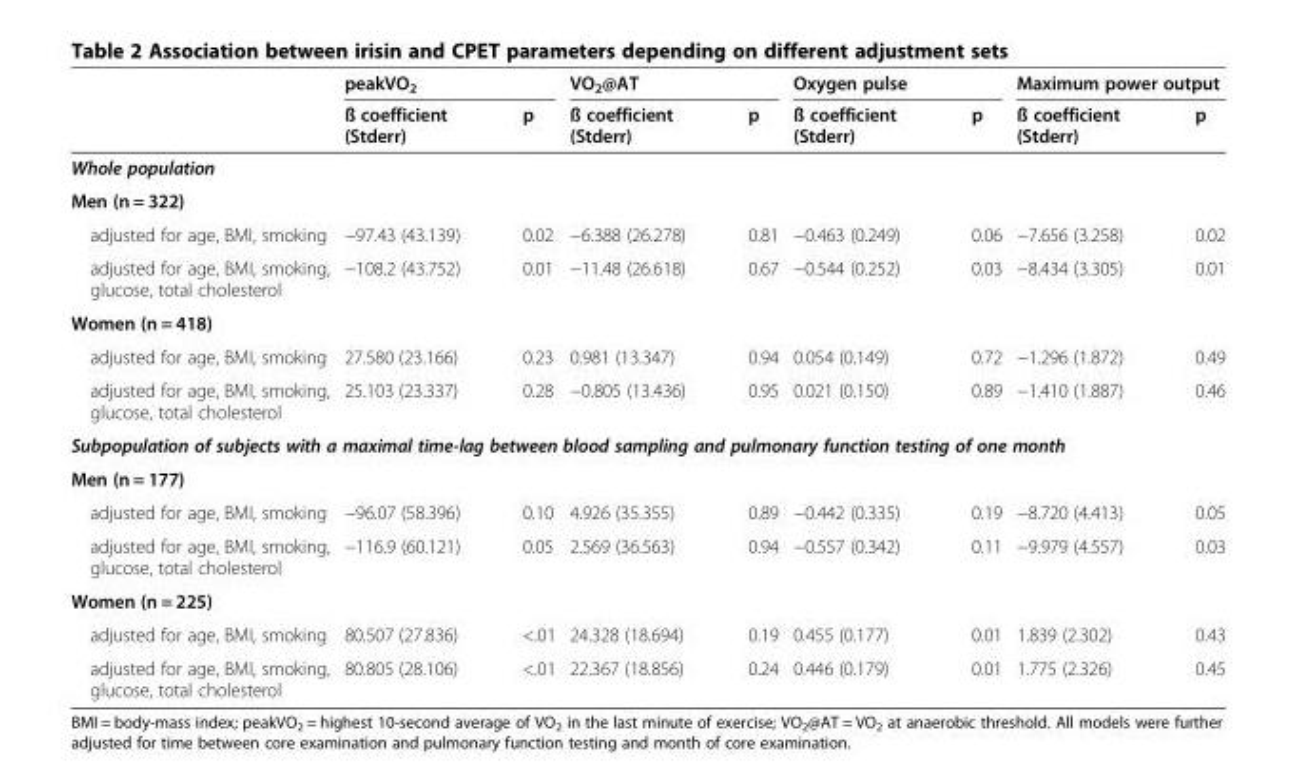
<table><thead><tr><td rowspan="2"></td><td colspan="2">peakVO<sub>2</sub></td><td colspan="2">VO<sub>2</sub>@AT</td><td colspan="2">Oxygen pulse</td><td colspan="2">Maximum power output</td></tr><tr><td>ß coefficient (Stderr)</td><td>p</td><td>ß coefficient (Stderr)</td><td>p</td><td>ß coefficient (Stderr)</td><td>p</td><td>ß coefficient (Stderr)</td><td>p</td></tr></thead><tbody><tr><td colspan="9">Whole population</td></tr><tr><td colspan="9">Men (n = 322)</td></tr><tr><td>adjusted for age, BMI, smoking</td><td>−97.43 (43.139)</td><td>0.02</td><td>−6.388 (26.278)</td><td>0.81</td><td>−0.463 (0.249)</td><td>0.06</td><td>−7.656 (3.258)</td><td>0.02</td></tr><tr><td>adjusted for age, BMI, smoking, glucose, total cholesterol</td><td>−108.2 (43.752)</td><td>0.01</td><td>−11.48 (26.618)</td><td>0.67</td><td>−0.544 (0.252)</td><td>0.03</td><td>−8.434 (3.305)</td><td>0.01</td></tr><tr><td colspan="9">Women (n = 418)</td></tr><tr><td>adjusted for age, BMI, smoking</td><td>27.580 (23.166)</td><td>0.23</td><td>0.981 (13.347)</td><td>0.94</td><td>0.054 (0.149)</td><td>0.72</td><td>−1.296 (1.872)</td><td>0.49</td></tr><tr><td>adjusted for age, BMI, smoking, glucose, total cholesterol</td><td>25.103 (23.337)</td><td>0.28</td><td>−0.805 (13.436)</td><td>0.95</td><td>0.021 (0.150)</td><td>0.89</td><td>−1.410 (1.887)</td><td>0.46</td></tr><tr><td colspan="9">Subpopulation of subjects with a maximal time-lag between blood sampling and pulmonary function testing of one month</td></tr><tr><td colspan="9">Men (n = 177)</td></tr><tr><td>adjusted for age, BMI, smoking</td><td>−96.07 (58.396)</td><td>0.10</td><td>4.926 (35.355)</td><td>0.89</td><td>−0.442 (0.335)</td><td>0.19</td><td>−8.720 (4.413)</td><td>0.05</td></tr><tr><td>adjusted for age, BMI, smoking, glucose, total cholesterol</td><td>−116.9 (60.121)</td><td>0.05</td><td>2.569 (36.563)</td><td>0.94</td><td>−0.557 (0.342)</td><td>0.11</td><td>−9.979 (4.557)</td><td>0.03</td></tr><tr><td colspan="9">Women (n = 225)</td></tr><tr><td>adjusted for age, BMI, smoking</td><td>80.507 (27.836)</td><td>&lt;.01</td><td>24.328 (18.694)</td><td>0.19</td><td>0.455 (0.177)</td><td>0.01</td><td>1.839 (2.302)</td><td>0.43</td></tr><tr><td>adjusted for age, BMI, smoking, glucose, total cholesterol</td><td>80.805 (28.106)</td><td>&lt;.01</td><td>22.367 (18.856)</td><td>0.24</td><td>0.446 (0.179)</td><td>0.01</td><td>1.775 (2.326)</td><td>0.45</td></tr></tbody></table>